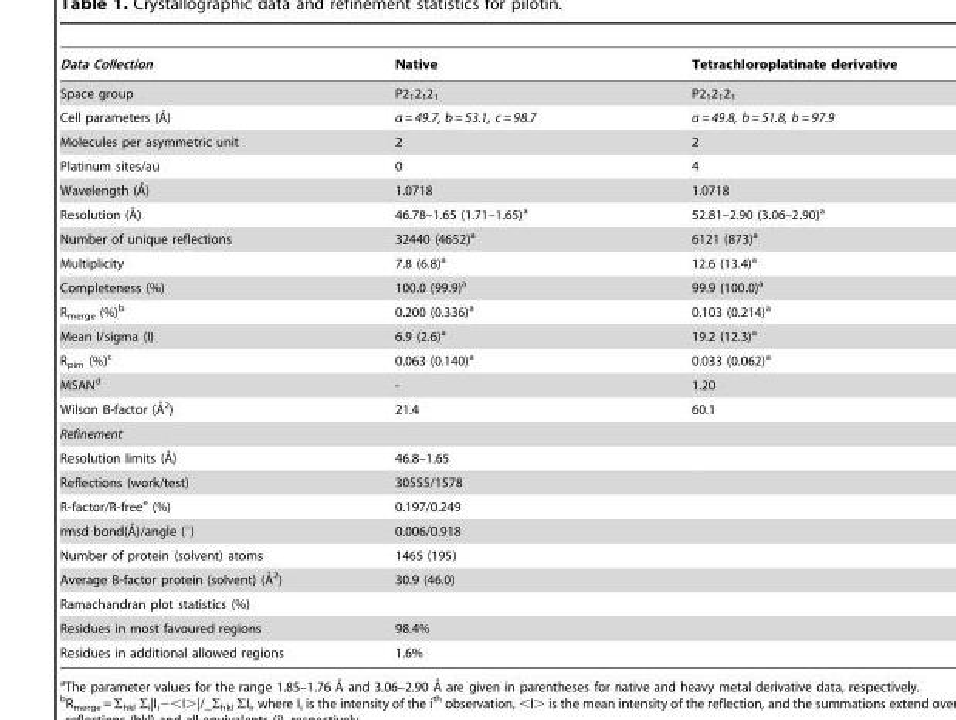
<table><thead><tr><td>Data Collection</td><td>Native</td><td>Tetrachloroplatinate derivative</td></tr></thead><tbody><tr><td>Space group</td><td>P2<sub>1</sub>2<sub>1</sub>2<sub>1</sub></td><td>P2<sub>1</sub>2<sub>1</sub>2<sub>1</sub></td></tr><tr><td>Cell parameters (A˚)</td><td>a = 49.7, b = 53.1, c = 98.7</td><td>a = 49.8, b = 51.8, b = 97.9</td></tr><tr><td>Molecules per asymmetric unit</td><td>2</td><td>2</td></tr><tr><td>Platinum sites/au</td><td>0</td><td>4</td></tr><tr><td>Wavelength (A˚)</td><td>1.0718</td><td>1.0718</td></tr><tr><td>Resolution (A˚)</td><td>46.78–1.65 (1.71–1.65)<sup>a</sup></td><td>52.81–2.90 (3.06–2.90)<sup>a</sup></td></tr><tr><td>Number of unique reflections</td><td>32440 (4652)<sup>a</sup></td><td>6121 (873)<sup>a</sup></td></tr><tr><td>Multiplicity</td><td>7.8 (6.8)<sup>a</sup></td><td>12.6 (13.4)<sup>a</sup></td></tr><tr><td>Completeness (%)</td><td>100.0 (99.9)<sup>a</sup></td><td>99.9 (100.0)<sup>a</sup></td></tr><tr><td>R<sub>merge</sub> (%)<sup>b</sup></td><td>0.200 (0.336)<sup>a</sup></td><td>0.103 (0.214)<sup>a</sup></td></tr><tr><td>Mean I/sigma (I)</td><td>6.9 (2.6)<sup>a</sup></td><td>19.2 (12.3)<sup>a</sup></td></tr><tr><td>R<sub>pim</sub> (%)<sup>c</sup></td><td>0.063 (0.140)<sup>a</sup></td><td>0.033 (0.062)<sup>a</sup></td></tr><tr><td>MSAN<sup>d</sup></td><td>-</td><td>1.20</td></tr><tr><td>Wilson B-factor (A˚2)</td><td>21.4</td><td>60.1</td></tr><tr><td colspan="3">Refinement</td></tr><tr><td>Resolution limits (A˚)</td><td>46.8–1.65</td><td></td></tr><tr><td>Reflections (work/test)</td><td>30555/1578</td><td></td></tr><tr><td>R-factor/R-free<sup>e</sup> (%)</td><td>0.197/0.249</td><td></td></tr><tr><td>rmsd bond(A˚)/angle (u)</td><td>0.006/0.918</td><td></td></tr><tr><td>Number of protein (solvent) atoms</td><td>1465 (195)</td><td></td></tr><tr><td>Average B-factor protein (solvent) (A˚2)</td><td>30.9 (46.0)</td><td></td></tr><tr><td colspan="3">Ramachandran plot statistics (%)</td></tr><tr><td>Residues in most favoured regions</td><td>98.4%</td><td></td></tr><tr><td>Residues in additional allowed regions</td><td>1.6%</td><td></td></tr></tbody></table>